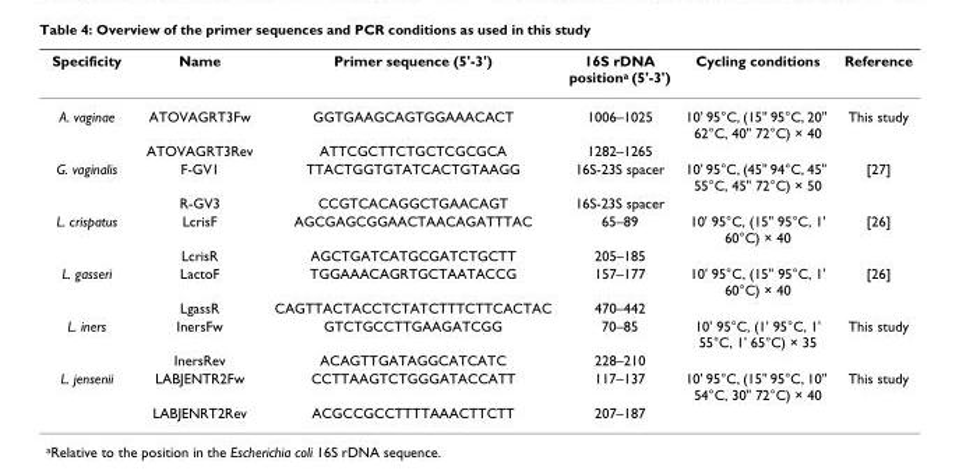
<table><thead><tr><td>Specificity</td><td>Name</td><td>Primer sequence (5&#x27;-3&#x27;)</td><td>16S rDNA position<sup>a</sup> (5&#x27;-3&#x27;)</td><td>Cycling conditions</td><td>Reference</td></tr></thead><tbody><tr><td rowspan="2">A. vaginae</td><td>ATOVAGRT3Fw</td><td>GGTGAAGCAGTGGAAACACT</td><td>1006–1025</td><td>10&#x27; 95°C, (15&quot; 95°C, 20&quot; 62°C, 40&quot; 72°C) × 40</td><td>This study</td></tr><tr><td>ATOVAGRT3Rev</td><td>ATTCGCTTCTGCTCGCGCA</td><td>1282–1265</td><td></td><td></td></tr><tr><td rowspan="2">G. vaginalis</td><td>F-GV1</td><td>TTACTGGTGTATCACTGTAAGG</td><td>16S-23S spacer</td><td>10&#x27; 95°C, (45&quot; 94°C, 45&quot; 55°C, 45&quot; 72°C) × 50</td><td>[27]</td></tr><tr><td>R-GV3</td><td>CCGTCACAGGCTGAACAGT</td><td>16S-23S spacer</td><td></td><td></td></tr><tr><td rowspan="2">L. crispatus</td><td>LcrisF</td><td>AGCGAGCGGAACTAACAGATTTAC</td><td>65–89</td><td>10&#x27; 95°C, (15&quot; 95°C, 1&#x27; 60°C) × 40</td><td>[26]</td></tr><tr><td>LcrisR</td><td>AGCTGATCATGCGATCTGCTT</td><td>205–185</td><td></td><td></td></tr><tr><td rowspan="2">L. gasseri</td><td>LactoF</td><td>TGGAAACAGRTGCTAATACCG</td><td>157–177</td><td>10&#x27; 95°C, (15&quot; 95°C, 1&#x27; 60°C) × 40</td><td>[26]</td></tr><tr><td>LgassR</td><td>CAGTTACTACCTCTATCTTTCTTCACTAC</td><td>470–442</td><td></td><td></td></tr><tr><td rowspan="2">L. iners</td><td>InersFw</td><td>GTCTGCCTTGAAGATCGG</td><td>70–85</td><td>10&#x27; 95°C, (1&#x27; 95°C, 1&#x27; 55°C, 1&#x27; 65°C) × 35</td><td>This study</td></tr><tr><td>InersRev</td><td>ACAGTTGATAGGCATCATC</td><td>228–210</td><td></td><td></td></tr><tr><td rowspan="2">L. jensenii</td><td>LABJENTR2Fw</td><td>CCTTAAGTCTGGGATACCATT</td><td>117–137</td><td>10&#x27; 95°C, (15&quot; 95°C, 10&quot; 54°C, 30&quot; 72°C) × 40</td><td>This study</td></tr><tr><td>LABJENRT2Rev</td><td>ACGCCGCCTTTTAAACTTCTT</td><td>207–187</td><td></td><td></td></tr></tbody></table>